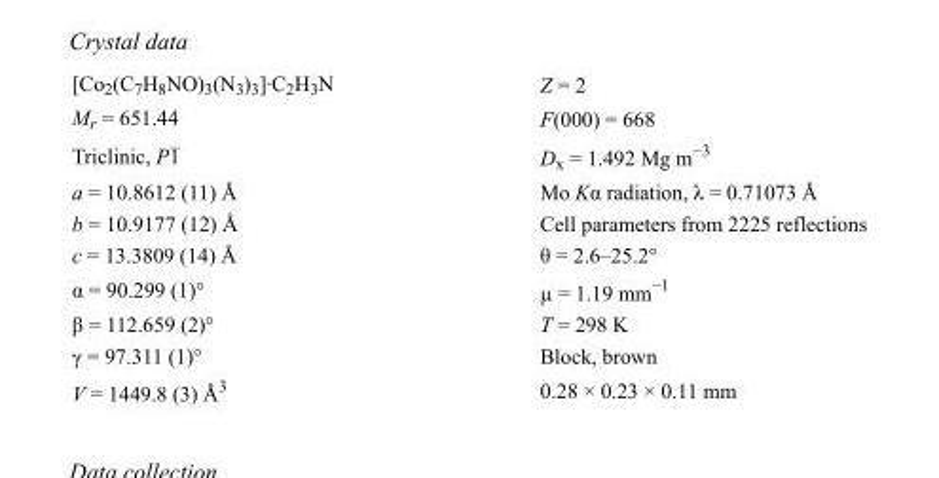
<table><tbody><tr><td>[Co<sub>2</sub>(C<sub>7</sub>H<sub>8</sub>NO)<sub>3</sub>(N<sub>3</sub>)<sub>3</sub>]·C<sub>2</sub>H<sub>3</sub>N</td><td>Z = 2</td></tr><tr><td>M<sub>r</sub> = 651.44</td><td>F(000) = 668</td></tr><tr><td>Triclinic, P1</td><td>D<sub>x</sub> = 1.492 Mg m<sup>−3</sup></td></tr><tr><td>a = 10.8612 (11) Å</td><td>Mo Kα radiation, λ = 0.71073 Å</td></tr><tr><td>b = 10.9177 (12) Å</td><td>Cell parameters from 2225 reflections</td></tr><tr><td>c = 13.3809 (14) Å</td><td>θ = 2.6–25.2°</td></tr><tr><td>α = 90.299 (1)°</td><td>µ = 1.19 mm<sup>−1</sup></td></tr><tr><td>β = 112.659 (2)°</td><td>T = 298 K</td></tr><tr><td>γ = 97.311 (1)°</td><td>Block, brown</td></tr><tr><td>V = 1449.8 (3) Å<sup>3</sup></td><td>0.28 × 0.23 × 0.11 mm</td></tr></tbody></table>